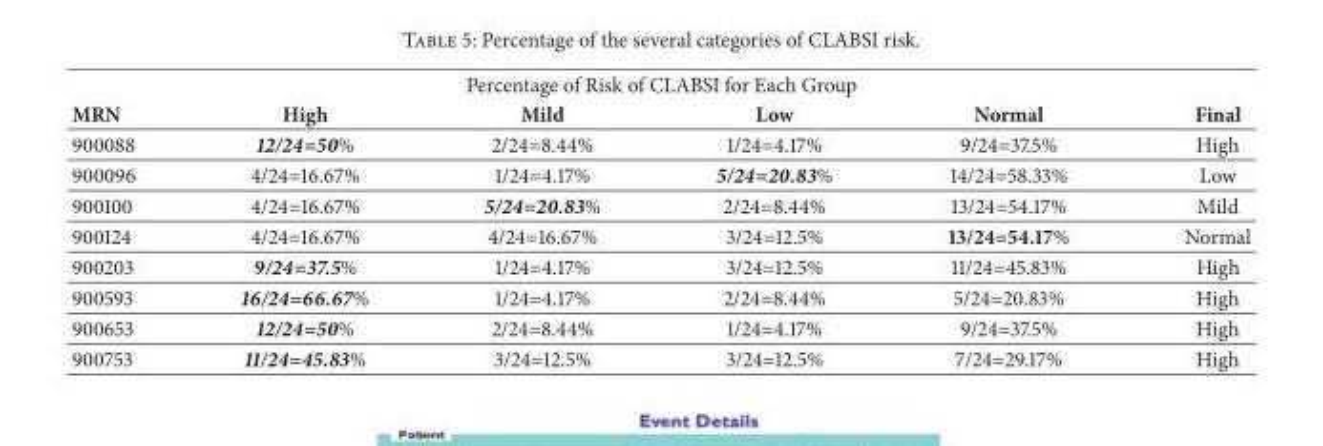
<table><thead><tr><td colspan="6">Percentage of Risk of CLABSI for Each Group</td></tr><tr><td>MRN</td><td>High</td><td>Mild</td><td>Low</td><td>Normal</td><td>Final</td></tr></thead><tbody><tr><td>900088</td><td>12/24=50%</td><td>2/24=8.44%</td><td>1/24=4.17%</td><td>9/24=37.5%</td><td>High</td></tr><tr><td>900096</td><td>4/24=16.67%</td><td>1/24=4.17%</td><td>5/24=20.83%</td><td>14/24=58.33%</td><td>Low</td></tr><tr><td>900100</td><td>4/24=16.67%</td><td>5/24=20.83%</td><td>2/24=8.44%</td><td>13/24=54.17%</td><td>Mild</td></tr><tr><td>900124</td><td>4/24=16.67%</td><td>4/24=16.67%</td><td>3/24=12.5%</td><td>13/24=54.17%</td><td>Normal</td></tr><tr><td>900203</td><td>9/24=37.5%</td><td>1/24=4.17%</td><td>3/24=12.5%</td><td>11/24=45.83%</td><td>High</td></tr><tr><td>900593</td><td>16/24=66.67%</td><td>1/24=4.17%</td><td>2/24=8.44%</td><td>5/24=20.83%</td><td>High</td></tr><tr><td>900653</td><td>12/24=50%</td><td>2/24=8.44%</td><td>1/24=4.17%</td><td>9/24=37.5%</td><td>High</td></tr><tr><td>900753</td><td>11/24=45.83%</td><td>3/24=12.5%</td><td>3/24=12.5%</td><td>7/24=29.17%</td><td>High</td></tr></tbody></table>